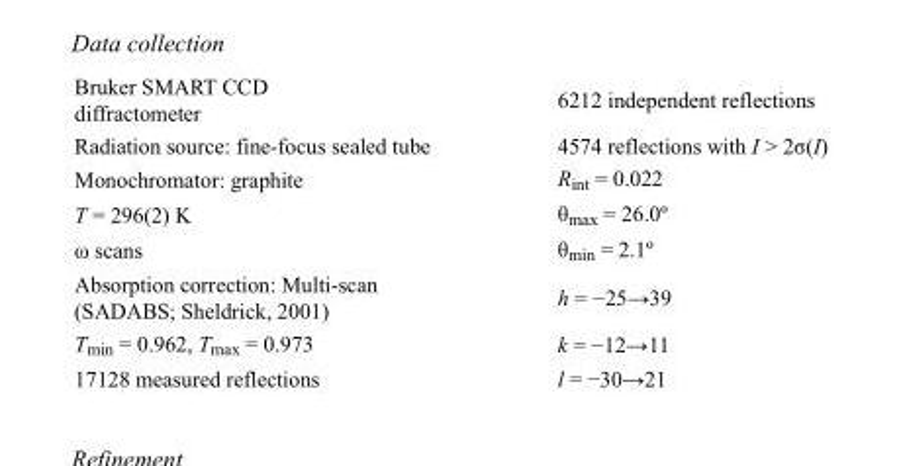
<table><tbody><tr><td>Bruker SMART CCD diffractometer</td><td>6212 independent reflections</td></tr><tr><td>Radiation source: fine-focus sealed tube</td><td>4574 reflections with I &gt; 2σ(I)</td></tr><tr><td>Monochromator: graphite</td><td>R<sub>int</sub> = 0.022</td></tr><tr><td>T = 296(2) K</td><td>θ<sub>max</sub> = 26.0º</td></tr><tr><td>ω scans</td><td>θ<sub>min</sub> = 2.1º</td></tr><tr><td>Absorption correction: Multi-scan (SADABS; Sheldrick, 2001)</td><td>h = −25→39</td></tr><tr><td>T<sub>min</sub> = 0.962, T<sub>max</sub> = 0.973</td><td>k = −12→11</td></tr><tr><td>17128 measured reflections</td><td>l = −30→21</td></tr></tbody></table>